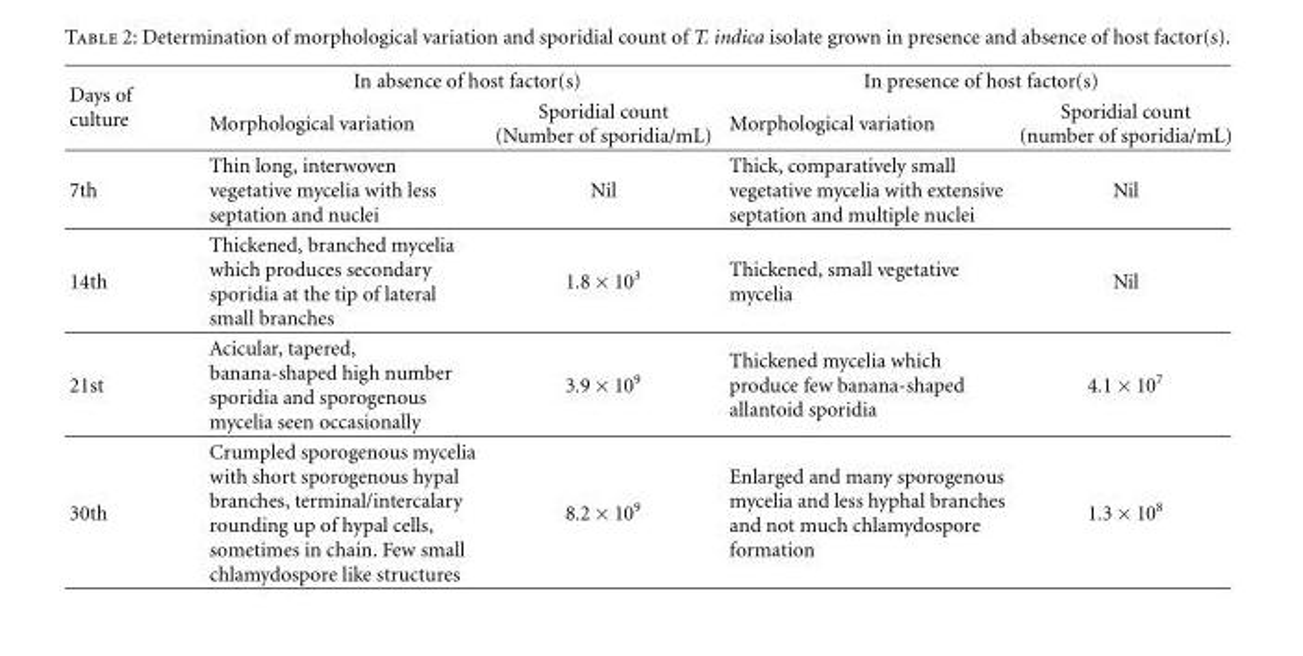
<table><thead><tr><td rowspan="2">Days of culture</td><td colspan="2">In absence of host factor(s)</td><td colspan="2">In presence of host factor(s)</td></tr><tr><td>Morphological variation</td><td>Sporidial count (Number of sporidia/mL)</td><td>Morphological variation</td><td>Sporidial count (number of sporidia/mL)</td></tr></thead><tbody><tr><td>7th</td><td>Thin long, interwoven vegetative mycelia with less septation and nuclei</td><td>Nil</td><td>Thick, comparatively small vegetative mycelia with extensive septation and multiple nuclei</td><td>Nil</td></tr><tr><td>14th</td><td>Thickened, branched mycelia which produces secondary sporidia at the tip of lateral small branches</td><td>1.8 × 10<sup>3</sup></td><td>Thickened, small vegetative mycelia</td><td>Nil</td></tr><tr><td>21st</td><td>Acicular, tapered, banana-shaped high number sporidia and sporogenous mycelia seen occasionally</td><td>3.9 × 10<sup>9</sup></td><td>Thickened mycelia which produce few banana-shaped allantoid sporidia</td><td>4.1 × 10<sup>7</sup></td></tr><tr><td>30th</td><td>Crumpled sporogenous mycelia with short sporogenous hypal branches, terminal/intercalary rounding up of hypal cells, sometimes in chain. Few small chlamydospore like structures</td><td>8.2 × 10<sup>9</sup></td><td>Enlarged and many sporogenous mycelia and less hyphal branches and not much chlamydospore formation</td><td>1.3 × 10<sup>8</sup></td></tr></tbody></table>